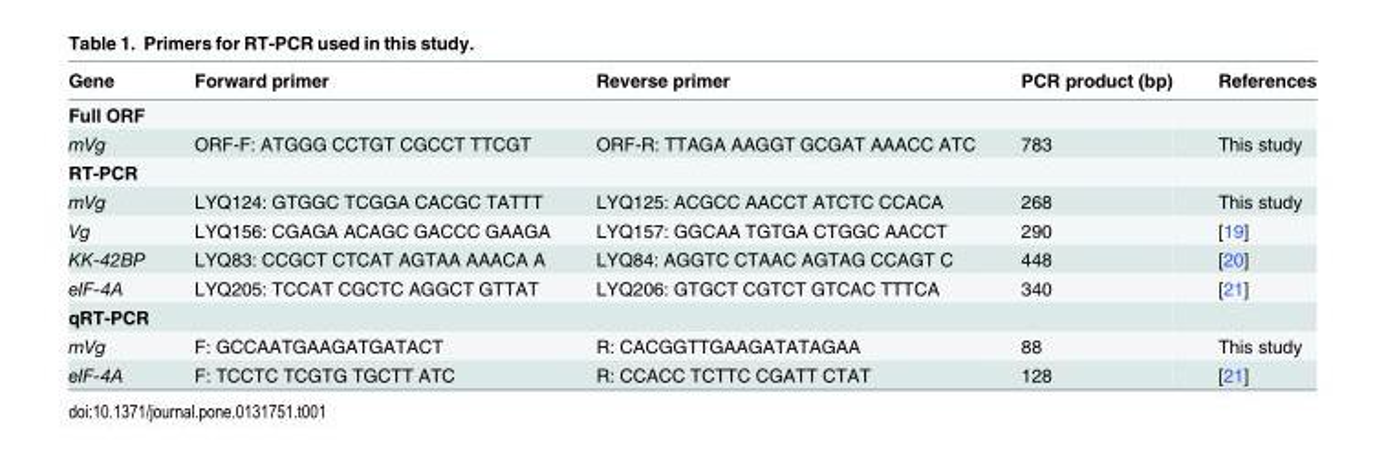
<table><thead><tr><td>Gene</td><td>Forward primer</td><td>Reverse primer</td><td>PCR product (bp)</td><td>References</td></tr></thead><tbody><tr><td colspan="5">Full ORF</td></tr><tr><td>mVg</td><td>ORF-F: ATGGG CCTGT CGCCT TTCGT</td><td>ORF-R: TTAGA AAGGT GCGAT AAACC ATC</td><td>783</td><td>This study</td></tr><tr><td colspan="5">RT-PCR</td></tr><tr><td>mVg</td><td>LYQ124: GTGGC TCGGA CACGC TATTT</td><td>LYQ125: ACGCC AACCT ATCTC CCACA</td><td>268</td><td>This study</td></tr><tr><td>Vg</td><td>LYQ156: CGAGA ACAGC GACCC GAAGA</td><td>LYQ157: GGCAA TGTGA CTGGC AACCT</td><td>290</td><td>[19]</td></tr><tr><td>KK-42BP</td><td>LYQ83: CCGCT CTCAT AGTAA AAACA A</td><td>LYQ84: AGGTC CTAAC AGTAG CCAGT C</td><td>448</td><td>[20]</td></tr><tr><td>eIF-4A</td><td>LYQ205: TCCAT CGCTC AGGCT GTTAT</td><td>LYQ206: GTGCT CGTCT GTCAC TTTCA</td><td>340</td><td>[21]</td></tr><tr><td colspan="5">qRT-PCR</td></tr><tr><td>mVg</td><td>F: GCCAATGAAGATGATACT</td><td>R: CACGGTTGAAGATATAGAA</td><td>88</td><td>This study</td></tr><tr><td>eIF-4A</td><td>F: TCCTC TCGTG TGCTT ATC</td><td>R: CCACC TCTTC CGATT CTAT</td><td>128</td><td>[21]</td></tr></tbody></table>